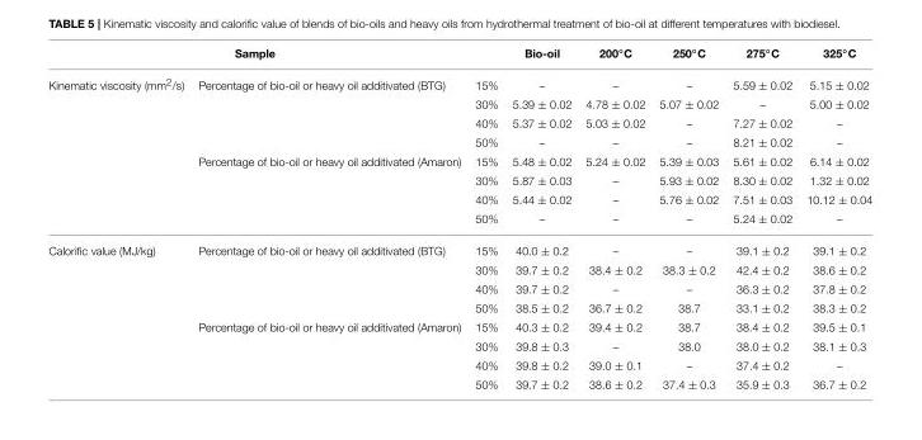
<table><thead><tr><td></td><td>Sample</td><td></td><td>Bio-oil</td><td>200◦C</td><td>250◦C</td><td>275◦C</td><td>325◦C</td></tr></thead><tbody><tr><td rowspan="8">Kinematic viscosity (mm<sup>2</sup>/s)</td><td>Percentage of bio-oil or heavy oil additivated (BTG)</td><td>15%</td><td>–</td><td>–</td><td>–</td><td>5.59 ± 0.02</td><td>5.15 ± 0.02</td></tr><tr><td></td><td>30%</td><td>5.39 ± 0.02</td><td>4.78 ± 0.02</td><td>5.07 ± 0.02</td><td>–</td><td>5.00 ± 0.02</td></tr><tr><td></td><td>40%</td><td>5.37 ± 0.02</td><td>5.03 ± 0.02</td><td>–</td><td>7.27 ± 0.02</td><td>–</td></tr><tr><td></td><td>50%</td><td>–</td><td>–</td><td>–</td><td>8.21 ± 0.02</td><td>–</td></tr><tr><td>Percentage of bio-oil or heavy oil additivated (Amaron)</td><td>15%</td><td>5.48 ± 0.02</td><td>5.24 ± 0.02</td><td>5.39 ± 0.03</td><td>5.61 ± 0.02</td><td>6.14 ± 0.02</td></tr><tr><td></td><td>30%</td><td>5.87 ± 0.03</td><td>–</td><td>5.93 ± 0.02</td><td>8.30 ± 0.02</td><td>1.32 ± 0.02</td></tr><tr><td></td><td>40%</td><td>5.44 ± 0.02</td><td>–</td><td>5.76 ± 0.02</td><td>7.51 ± 0.03</td><td>10.12 ± 0.04</td></tr><tr><td></td><td>50%</td><td>–</td><td>–</td><td>–</td><td>5.24 ± 0.02</td><td>–</td></tr><tr><td rowspan="8">Calorific value (MJ/kg)</td><td>Percentage of bio-oil or heavy oil additivated (BTG)</td><td>15%</td><td>40.0 ± 0.2</td><td>–</td><td>–</td><td>39.1 ± 0.2</td><td>39.1 ± 0.2</td></tr><tr><td></td><td>30%</td><td>39.7 ± 0.2</td><td>38.4 ± 0.2</td><td>38.3 ± 0.2</td><td>42.4 ± 0.2</td><td>38.6 ± 0.2</td></tr><tr><td></td><td>40%</td><td>39.7 ± 0.2</td><td>–</td><td>–</td><td>36.3 ± 0.2</td><td>37.8 ± 0.2</td></tr><tr><td></td><td>50%</td><td>38.5 ± 0.2</td><td>36.7 ± 0.2</td><td>38.7</td><td>33.1 ± 0.2</td><td>38.3 ± 0.2</td></tr><tr><td>Percentage of bio-oil or heavy oil additivated (Amaron)</td><td>15%</td><td>40.3 ± 0.2</td><td>39.4 ± 0.2</td><td>38.7</td><td>38.4 ± 0.2</td><td>39.5 ± 0.1</td></tr><tr><td></td><td>30%</td><td>39.8 ± 0.3</td><td>–</td><td>38.0</td><td>38.0 ± 0.2</td><td>38.1 ± 0.3</td></tr><tr><td></td><td>40%</td><td>39.8 ± 0.2</td><td>39.0 ± 0.1</td><td>–</td><td>37.4 ± 0.2</td><td>–</td></tr><tr><td></td><td>50%</td><td>39.7 ± 0.2</td><td>38.6 ± 0.2</td><td>37.4 ± 0.3</td><td>35.9 ± 0.3</td><td>36.7 ± 0.2</td></tr></tbody></table>